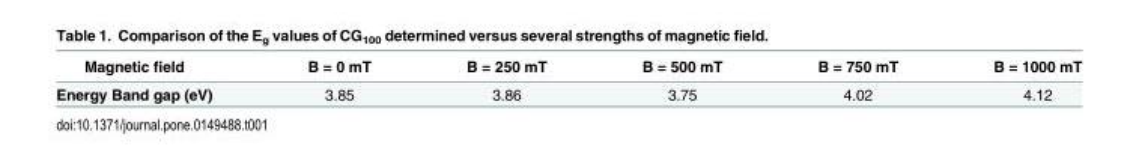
<table><thead><tr><td>Magnetic field</td><td>B = 0 mT</td><td>B = 250 mT</td><td>B = 500 mT</td><td>B = 750 mT</td><td>B = 1000 mT</td></tr></thead><tbody><tr><td>Energy Band gap (eV)</td><td>3.85</td><td>3.86</td><td>3.75</td><td>4.02</td><td>4.12</td></tr></tbody></table>